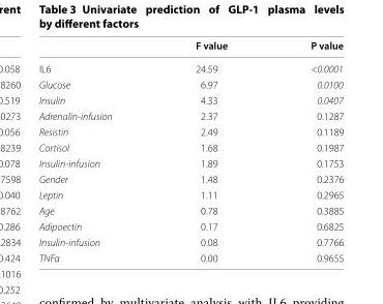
<table><thead><tr><td></td><td>F value</td><td>P value</td></tr></thead><tbody><tr><td>IL6</td><td>24.59</td><td>&lt;0.0001</td></tr><tr><td>Glucose</td><td>6.97</td><td>0.0100</td></tr><tr><td>Insulin</td><td>4.33</td><td>0.0407</td></tr><tr><td>Adrenalin-infusion</td><td>2.37</td><td>0.1287</td></tr><tr><td>Resistin</td><td>2.49</td><td>0.1189</td></tr><tr><td>Cortisol</td><td>1.68</td><td>0.1987</td></tr><tr><td>Insulin-infusion</td><td>1.89</td><td>0.1753</td></tr><tr><td>Gender</td><td>1.48</td><td>0.2376</td></tr><tr><td>Leptin</td><td>1.11</td><td>0.2965</td></tr><tr><td>Age</td><td>0.78</td><td>0.3885</td></tr><tr><td>Adipoectin</td><td>0.17</td><td>0.6825</td></tr><tr><td>Insulin-infusion</td><td>0.08</td><td>0.7766</td></tr><tr><td>TNFα</td><td>0.00</td><td>0.9655</td></tr></tbody></table>